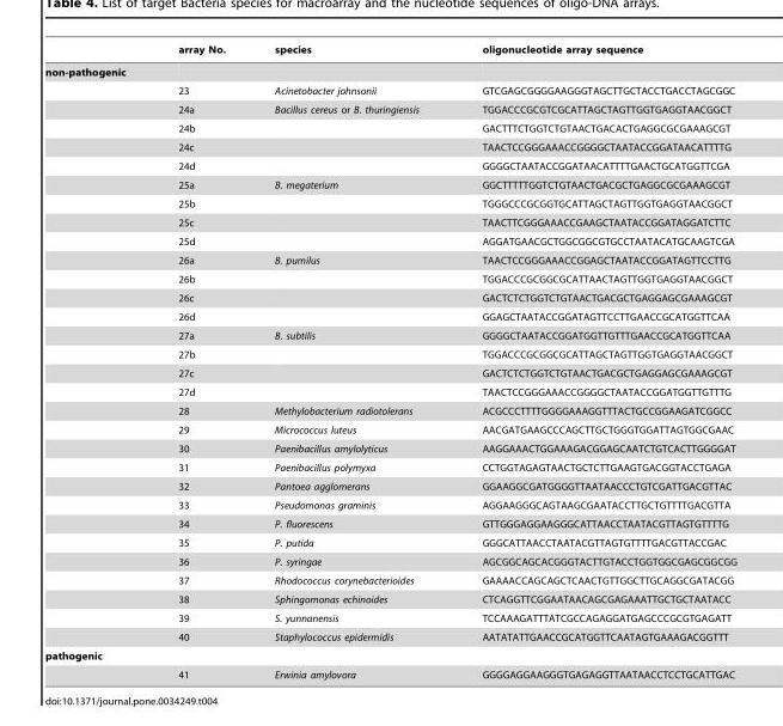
<table><thead><tr><td></td><td>array No.</td><td>species</td><td>oligonucleotide array sequence</td></tr></thead><tbody><tr><td colspan="4">non-pathogenic</td></tr><tr><td></td><td>23</td><td>Acinetobacter johnsonii</td><td>GTCGAGCGGGGAAGGGTAGCTTGCTACCTGACCTAGCGGC</td></tr><tr><td></td><td>24a</td><td>Bacillus cereus or B. thuringiensis</td><td>TGGACCCGCGTCGCATTAGCTAGTTGGTGAGGTAACGGCT</td></tr><tr><td></td><td>24b</td><td></td><td>GACTTTCTGGTCTGTAACTGACACTGAGGCGCGAAAGCGT</td></tr><tr><td></td><td>24c</td><td></td><td>TAACTCCGGGAAACCGGGGCTAATACCGGATAACATTTTG</td></tr><tr><td></td><td>24d</td><td></td><td>GGGGCTAATACCGGATAACATTTTGAACTGCATGGTTCGA</td></tr><tr><td></td><td>25a</td><td>B. megaterium</td><td>GGCTTTTTGGTCTGTAACTGACGCTGAGGCGCGAAAGCGT</td></tr><tr><td></td><td>25b</td><td></td><td>TGGGCCCGCGGTGCATTAGCTAGTTGGTGAGGTAACGGCT</td></tr><tr><td></td><td>25c</td><td></td><td>TAACTTCGGGAAACCGAAGCTAATACCGGATAGGATCTTC</td></tr><tr><td></td><td>25d</td><td></td><td>AGGATGAACGCTGGCGGCGTGCCTAATACATGCAAGTCGA</td></tr><tr><td></td><td>26a</td><td>B. pumilus</td><td>TAACTCCGGGAAACCGGAGCTAATACCGGATAGTTCCTTG</td></tr><tr><td></td><td>26b</td><td></td><td>TGGACCCGCGGCGCATTAACTAGTTGGTGAGGTAACGGCT</td></tr><tr><td></td><td>26c</td><td></td><td>GACTCTCTGGTCTGTAACTGACGCTGAGGAGCGAAAGCGT</td></tr><tr><td></td><td>26d</td><td></td><td>GGAGCTAATACCGGATAGTTCCTTGAACCGCATGGTTCAA</td></tr><tr><td></td><td>27a</td><td>B. subtilis</td><td>GGGGCTAATACCGGATGGTTGTTTGAACCGCATGGTTCAA</td></tr><tr><td></td><td>27b</td><td></td><td>TGGACCCGCGGCGCATTAGCTAGTTGGTGAGGTAACGGCT</td></tr><tr><td></td><td>27c</td><td></td><td>GACTCTCTGGTCTGTAACTGACGCTGAGGAGCGAAAGCGT</td></tr><tr><td></td><td>27d</td><td></td><td>TAACTCCGGGAAACCGGGGCTAATACCGGATGGTTGTTTG</td></tr><tr><td></td><td>28</td><td>Methylobacterium radiotolerans</td><td>ACGCCCTTTTGGGGAAAGGTTTACTGCCGGAAGATCGGCC</td></tr><tr><td></td><td>29</td><td>Micrococcus luteus</td><td>AACGATGAAGCCCAGCTTGCTGGGTGGATTAGTGGCGAAC</td></tr><tr><td></td><td>30</td><td>Paenibacillus amylolyticus</td><td>AAGGAAACTGGAAAGACGGAGCAATCTGTCACTTGGGGAT</td></tr><tr><td></td><td>31</td><td>Paenibacillus polymyxa</td><td>CCTGGTAGAGTAACTGCTCTTGAAGTGACGGTACCTGAGA</td></tr><tr><td></td><td>32</td><td>Pantoea agglomerans</td><td>GGAAGGCGATGGGGTTAATAACCCTGTCGATTGACGTTAC</td></tr><tr><td></td><td>33</td><td>Pseudomonas graminis</td><td>AGGAAGGGCAGTAAGCGAATACCTTGCTGTTTTGACGTTA</td></tr><tr><td></td><td>34</td><td>P. fluorescens</td><td>GTTGGGAGGAAGGGCATTAACCTAATACGTTAGTGTTTTG</td></tr><tr><td></td><td>35</td><td>P. putida</td><td>GGGCATTAACCTAATACGTTAGTGTTTTGACGTTACCGAC</td></tr><tr><td></td><td>36</td><td>P. syringae</td><td>AGCGGCAGCACGGGTACTTGTACCTGGTGGCGAGCGGCGG</td></tr><tr><td></td><td>37</td><td>Rhodococcus corynebacterioides</td><td>GAAAACCAGCAGCTCAACTGTTGGCTTGCAGGCGATACGG</td></tr><tr><td></td><td>38</td><td>Sphingomonas echinoides</td><td>CTCAGGTTCGGAATAACAGCGAGAAATTGCTGCTAATACC</td></tr><tr><td></td><td>39</td><td>S. yunnanensis</td><td>TCCAAAGATTTATCGCCAGAGGATGAGCCCGCGTGAGATT</td></tr><tr><td></td><td>40</td><td>Staphylococcus epidermidis</td><td>AATATATTGAACCGCATGGTTCAATAGTGAAAGACGGTTT</td></tr><tr><td colspan="4">pathogenic</td></tr><tr><td></td><td>41</td><td>Erwinia amylovora</td><td>GGGGAGGAAGGGTGAGAGGTTAATAACCTCCTGCATTGAC</td></tr></tbody></table>